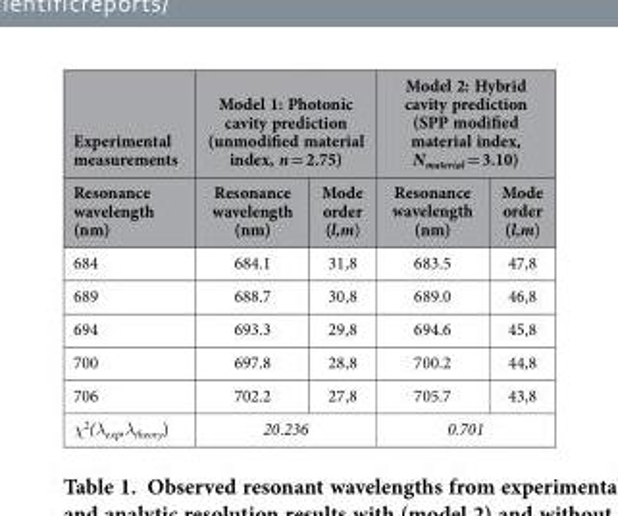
<table><thead><tr><td rowspan="2">Experimental measurements Resonance wavelength (nm)</td><td colspan="2">Model 1: Photonic cavity prediction (unmodified material index, n = 2.75)</td><td colspan="2">Model 2: Hybrid cavity prediction (SPP modified material index, N<sub>material</sub> = 3.10)</td></tr><tr><td>Resonance wavelength (nm)</td><td>Mode order (l,m)</td><td>Resonance wavelength (nm)</td><td>Mode order (l,m)</td></tr></thead><tbody><tr><td>684</td><td>684.1</td><td>31,8</td><td>683.5</td><td>47,8</td></tr><tr><td>689</td><td>688.7</td><td>30,8</td><td>689.0</td><td>46,8</td></tr><tr><td>694</td><td>693.3</td><td>29,8</td><td>694.6</td><td>45,8</td></tr><tr><td>700</td><td>697.8</td><td>28,8</td><td>700.2</td><td>44,8</td></tr><tr><td>706</td><td>702.2</td><td>27,8</td><td>705.7</td><td>43,8</td></tr><tr><td>χ<sup>2</sup>(λ<sub>exp</sub>,λ<sub>theory</sub>)</td><td colspan="2">20.236</td><td colspan="2">0.701</td></tr></tbody></table>